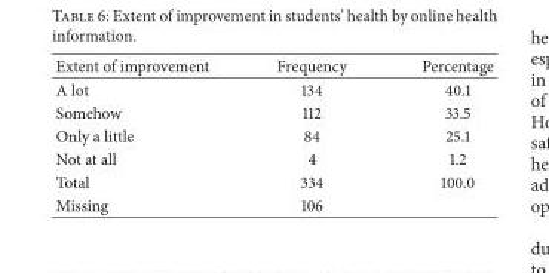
<table><thead><tr><td>Extent of improvement</td><td>Frequency</td><td>Percentage</td></tr></thead><tbody><tr><td>A lot</td><td>134</td><td>40.1</td></tr><tr><td>Somehow</td><td>112</td><td>33.5</td></tr><tr><td>Only a little</td><td>84</td><td>25.1</td></tr><tr><td>Not at all</td><td>4</td><td>1.2</td></tr><tr><td>Total</td><td>334</td><td>100.0</td></tr><tr><td>Missing</td><td>106</td><td></td></tr></tbody></table>